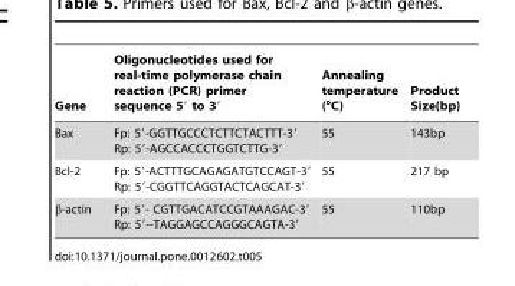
<table><thead><tr><td>Gene</td><td>Oligonucleotides used for real-time polymerase chain reaction (PCR) primer sequence 5′ to 3′</td><td>Annealing temperature (°C)</td><td>Product Size(bp)</td></tr></thead><tbody><tr><td>Bax</td><td>Fp: 5′-GGTTGCCCTCTTCTACTTT-3′ Rp: 5′-AGCCACCCTGGTCTTG-3′</td><td>55</td><td>143bp</td></tr><tr><td>Bcl-2</td><td>Fp: 5′-ACTTTGCAGAGATGTCCAGT-3′ Rp: 5′-CGGTTCAGGTACTCAGCAT-3′</td><td>55</td><td>217 bp</td></tr><tr><td>β-actin</td><td>Fp: 5′- CGTTGACATCCGTAAAGAC-3′ Rp: 5′--TAGGAGCCAGGGCAGTA-3′</td><td>55</td><td>110bp</td></tr></tbody></table>